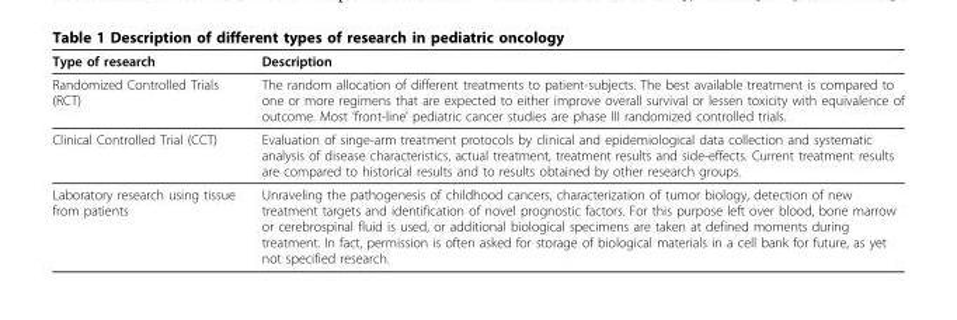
<table><thead><tr><td>Type of research</td><td>Description</td></tr></thead><tbody><tr><td>Randomized Controlled Trials (RCT)</td><td>The random allocation of different treatments to patient-subjects. The best available treatment is compared to one or more regimens that are expected to either improve overall survival or lessen toxicity with equivalence of outcome. Most ‘front-line’ pediatric cancer studies are phase III randomized controlled trials.</td></tr><tr><td>Clinical Controlled Trial (CCT)</td><td>Evaluation of singe-arm treatment protocols by clinical and epidemiological data collection and systematic analysis of disease characteristics, actual treatment, treatment results and side-effects. Current treatment results are compared to historical results and to results obtained by other research groups.</td></tr><tr><td>Laboratory research using tissue from patients</td><td>Unraveling the pathogenesis of childhood cancers, characterization of tumor biology, detection of new treatment targets and identification of novel prognostic factors. For this purpose left over blood, bone marrow or cerebrospinal fluid is used, or additional biological specimens are taken at defined moments during treatment. In fact, permission is often asked for storage of biological materials in a cell bank for future, as yet not specified research.</td></tr></tbody></table>